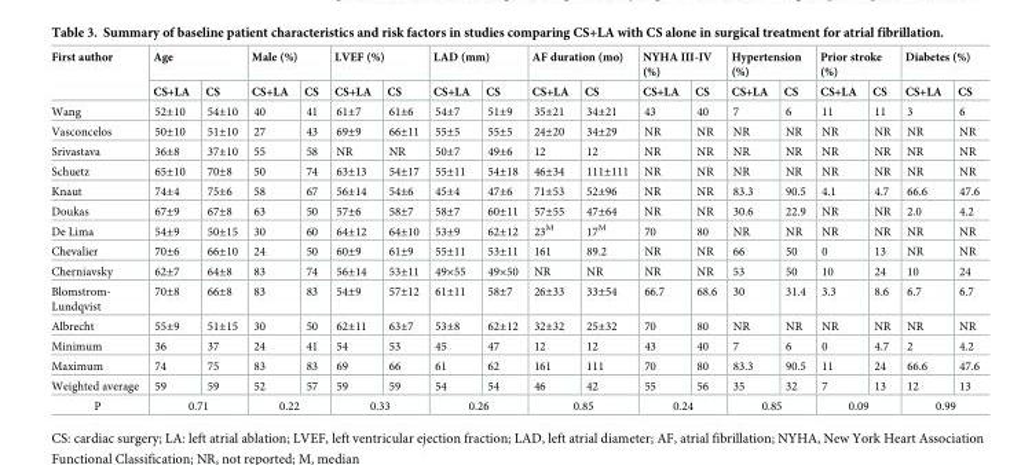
<table><thead><tr><td rowspan="2">First author</td><td colspan="2">Age</td><td colspan="2">Male (%)</td><td colspan="2">LVEF (%)</td><td colspan="2">LAD (mm)</td><td colspan="2">AF duration (mo)</td><td colspan="2">NYHA III-IV (%)</td><td colspan="2">Hypertension (%)</td><td colspan="2">Prior stroke (%)</td><td colspan="2">Diabetes (%)</td></tr><tr><td>CS+LA</td><td>CS</td><td>CS+LA</td><td>CS</td><td>CS+LA</td><td>CS</td><td>CS+LA</td><td>CS</td><td>CS+LA</td><td>CS</td><td>CS+LA</td><td>CS</td><td>CS+LA</td><td>CS</td><td>CS+LA</td><td>CS</td><td>CS+LA</td><td>CS</td></tr></thead><tbody><tr><td>Wang</td><td>52±10</td><td>54±10</td><td>40</td><td>41</td><td>61±7</td><td>61±6</td><td>54±7</td><td>51±9</td><td>35±21</td><td>34±21</td><td>43</td><td>40</td><td>7</td><td>6</td><td>11</td><td>11</td><td>3</td><td>6</td></tr><tr><td>Vasconcelos</td><td>50±10</td><td>51±10</td><td>27</td><td>43</td><td>69±9</td><td>66±11</td><td>55±5</td><td>55±5</td><td>24±20</td><td>34±29</td><td>NR</td><td>NR</td><td>NR</td><td>NR</td><td>NR</td><td>NR</td><td>NR</td><td>NR</td></tr><tr><td>Srivastava</td><td>36±8</td><td>37±10</td><td>55</td><td>58</td><td>NR</td><td>NR</td><td>50±7</td><td>49±6</td><td>12</td><td>12</td><td>NR</td><td>NR</td><td>NR</td><td>NR</td><td>NR</td><td>NR</td><td>NR</td><td>NR</td></tr><tr><td>Schuetz</td><td>65±10</td><td>70±8</td><td>50</td><td>74</td><td>63±13</td><td>54±17</td><td>55±11</td><td>54±18</td><td>46±34</td><td>111±111</td><td>NR</td><td>NR</td><td>NR</td><td>NR</td><td>NR</td><td>NR</td><td>NR</td><td>NR</td></tr><tr><td>Knaut</td><td>74±4</td><td>75±6</td><td>58</td><td>67</td><td>56±14</td><td>54±6</td><td>45±4</td><td>47±6</td><td>71±53</td><td>52±96</td><td>NR</td><td>NR</td><td>83.3</td><td>90.5</td><td>4.1</td><td>4.7</td><td>66.6</td><td>47.6</td></tr><tr><td>Doukas</td><td>67±9</td><td>67±8</td><td>63</td><td>50</td><td>57±6</td><td>58±7</td><td>58±7</td><td>60±11</td><td>57±55</td><td>47±64</td><td>NR</td><td>NR</td><td>30.6</td><td>22.9</td><td>NR</td><td>NR</td><td>2.0</td><td>4.2</td></tr><tr><td>De Lima</td><td>54±9</td><td>50±15</td><td>30</td><td>60</td><td>64±12</td><td>64±10</td><td>53±9</td><td>62±12</td><td>23<sup>M</sup></td><td>17<sup>M</sup></td><td>70</td><td>80</td><td>NR</td><td>NR</td><td>NR</td><td>NR</td><td>NR</td><td>NR</td></tr><tr><td>Chevalier</td><td>70±6</td><td>66±10</td><td>24</td><td>50</td><td>60±9</td><td>61±9</td><td>55±11</td><td>53±11</td><td>161</td><td>89.2</td><td>NR</td><td>NR</td><td>66</td><td>50</td><td>0</td><td>13</td><td>NR</td><td>NR</td></tr><tr><td>Cherniavsky</td><td>62±7</td><td>64±8</td><td>83</td><td>74</td><td>56±14</td><td>53±11</td><td>49×55</td><td>49×50</td><td>NR</td><td>NR</td><td>NR</td><td>NR</td><td>53</td><td>50</td><td>10</td><td>24</td><td>10</td><td>24</td></tr><tr><td>Blomstrom- Lundqvist</td><td>70±8</td><td>66±8</td><td>83</td><td>83</td><td>54±9</td><td>57±12</td><td>61±11</td><td>58±7</td><td>26±33</td><td>33±54</td><td>66.7</td><td>68.6</td><td>30</td><td>31.4</td><td>3.3</td><td>8.6</td><td>6.7</td><td>6.7</td></tr><tr><td>Albrecht</td><td>55±9</td><td>51±15</td><td>30</td><td>50</td><td>62±11</td><td>63±7</td><td>53±8</td><td>62±12</td><td>32±32</td><td>25±32</td><td>70</td><td>80</td><td>NR</td><td>NR</td><td>NR</td><td>NR</td><td>NR</td><td>NR</td></tr><tr><td>Minimum</td><td>36</td><td>37</td><td>24</td><td>41</td><td>54</td><td>53</td><td>45</td><td>47</td><td>12</td><td>12</td><td>43</td><td>40</td><td>7</td><td>6</td><td>0</td><td>4.7</td><td>2</td><td>4.2</td></tr><tr><td>Maximum</td><td>74</td><td>75</td><td>83</td><td>83</td><td>69</td><td>66</td><td>61</td><td>62</td><td>161</td><td>111</td><td>70</td><td>80</td><td>83.3</td><td>90.5</td><td>11</td><td>24</td><td>66.6</td><td>47.6</td></tr><tr><td>Weighted average</td><td>59</td><td>59</td><td>52</td><td>57</td><td>59</td><td>59</td><td>54</td><td>54</td><td>46</td><td>42</td><td>55</td><td>56</td><td>35</td><td>32</td><td>7</td><td>13</td><td>12</td><td>13</td></tr><tr><td>P</td><td colspan="2">0.71</td><td colspan="2">0.22</td><td colspan="2">0.33</td><td colspan="2">0.26</td><td colspan="2">0.85</td><td colspan="2">0.24</td><td colspan="2">0.85</td><td colspan="2">0.09</td><td colspan="2">0.99</td></tr></tbody></table>